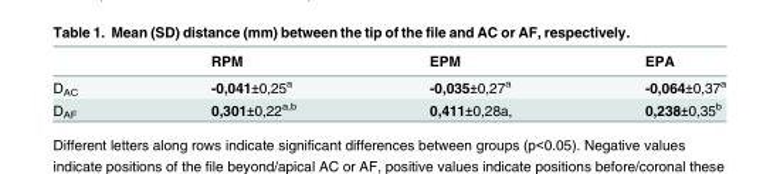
<table><thead><tr><td></td><td>RPM</td><td>EPM</td><td>EPA</td></tr></thead><tbody><tr><td>D<sub>AC</sub></td><td>-0,041±0,25<sup>a</sup></td><td>-0,035±0,27<sup>a</sup></td><td>-0,064±0,37<sup>a</sup></td></tr><tr><td>D<sub>AF</sub></td><td>0,301±0,22<sup>a,b</sup></td><td>0,411±0,28a,</td><td>0,238±0,35<sup>b</sup></td></tr></tbody></table>